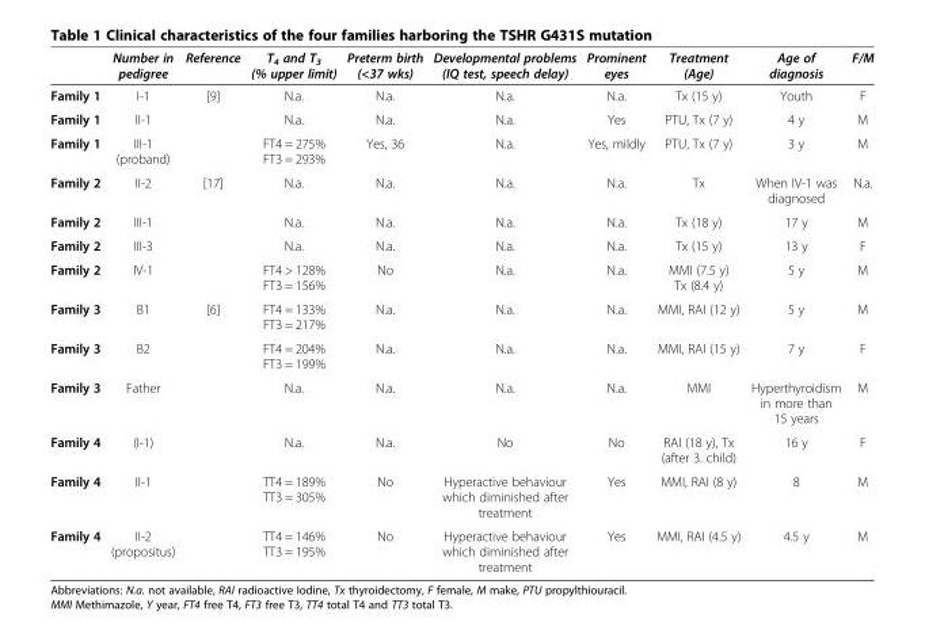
<table><thead><tr><td></td><td>Number in pedigree</td><td>Reference</td><td>T<sub>4</sub> and T<sub>3</sub> (% upper limit)</td><td>Preterm birth (&lt;37 wks)</td><td>Developmental problems (IQ test, speech delay)</td><td>Prominent eyes</td><td>Treatment (Age)</td><td>Age of diagnosis</td><td>F/M</td></tr></thead><tbody><tr><td>Family 1</td><td>I-1</td><td>[9]</td><td>N.a.</td><td>N.a.</td><td>N.a.</td><td>N.a.</td><td>Tx (15 y)</td><td>Youth</td><td>F</td></tr><tr><td>Family 1</td><td>II-1</td><td></td><td>N.a.</td><td>N.a.</td><td>N.a.</td><td>Yes</td><td>PTU, Tx (7 y)</td><td>4 y</td><td>M</td></tr><tr><td>Family 1</td><td>III-1 (proband)</td><td></td><td>FT4 = 275% FT3 = 293%</td><td>Yes, 36</td><td>N.a.</td><td>Yes, mildly</td><td>PTU, Tx (7 y)</td><td>3 y</td><td>M</td></tr><tr><td>Family 2</td><td>II-2</td><td>[17]</td><td>N.a.</td><td>N.a.</td><td>N.a.</td><td>N.a.</td><td>Tx</td><td>When IV-1 was diagnosed</td><td>N.a.</td></tr><tr><td>Family 2</td><td>III-1</td><td></td><td>N.a.</td><td>N.a.</td><td>N.a.</td><td>N.a.</td><td>Tx (18 y)</td><td>17 y</td><td>M</td></tr><tr><td>Family 2</td><td>III-3</td><td></td><td>N.a.</td><td>N.a.</td><td>N.a.</td><td>N.a.</td><td>Tx (15 y)</td><td>13 y</td><td>F</td></tr><tr><td>Family 2</td><td>IV-1</td><td></td><td>FT4 &gt; 128% FT3 = 156%</td><td>No</td><td>N.a.</td><td>N.a.</td><td>MMI (7.5 y) Tx (8.4 y)</td><td>5 y</td><td>M</td></tr><tr><td>Family 3</td><td>B1</td><td>[6]</td><td>FT4 = 133% FT3 = 217%</td><td>N.a.</td><td>N.a.</td><td>N.a.</td><td>MMI, RAI (12 y)</td><td>5 y</td><td>M</td></tr><tr><td>Family 3</td><td>B2</td><td></td><td>FT4 = 204% FT3 = 199%</td><td>N.a.</td><td>N.a.</td><td>N.a.</td><td>MMI, RAI (15 y)</td><td>7 y</td><td>F</td></tr><tr><td>Family 3</td><td>Father</td><td></td><td>N.a.</td><td>N.a.</td><td>N.a.</td><td>N.a.</td><td>MMI</td><td>Hyperthyroidism in more than 15 years</td><td>M</td></tr><tr><td>Family 4</td><td>(I-1)</td><td></td><td>N.a.</td><td>N.a.</td><td>No</td><td>No</td><td>RAI (18 y), Tx (after 3. child)</td><td>16 y</td><td>F</td></tr><tr><td>Family 4</td><td>II-1</td><td></td><td>TT4 = 189% TT3 = 305%</td><td>No</td><td>Hyperactive behaviour which diminished after treatment</td><td>Yes</td><td>MMI, RAI (8 y)</td><td>8</td><td>M</td></tr><tr><td>Family 4</td><td>II-2 (propositus)</td><td></td><td>TT4 = 146% TT3 = 195%</td><td>No</td><td>Hyperactive behaviour which diminished after treatment</td><td>Yes</td><td>MMI, RAI (4.5 y)</td><td>4.5 y</td><td>M</td></tr></tbody></table>